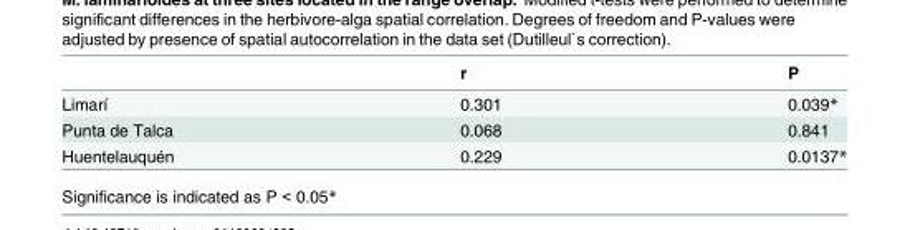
<table><thead><tr><td></td><td>r</td><td>P</td></tr></thead><tbody><tr><td>Limarí</td><td>0.301</td><td>0.039*</td></tr><tr><td>Punta de Talca</td><td>0.068</td><td>0.841</td></tr><tr><td>Huentelauquén</td><td>0.229</td><td>0.0137*</td></tr></tbody></table>